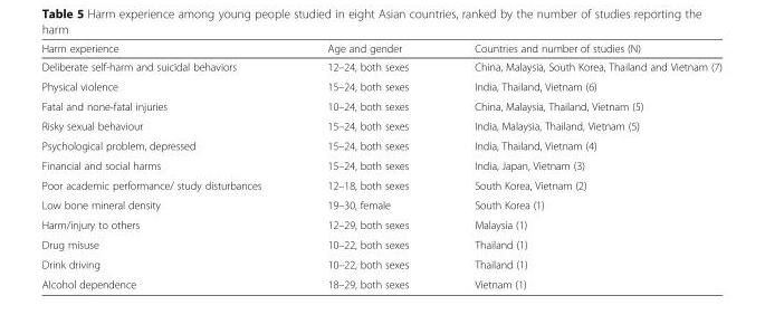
<table><thead><tr><td>Harm experience</td><td>Age and gender</td><td>Countries and number of studies (N)</td></tr></thead><tbody><tr><td>Deliberate self-harm and suicidal behaviors</td><td>12–24, both sexes</td><td>China, Malaysia, South Korea, Thailand and Vietnam (7)</td></tr><tr><td>Physical violence</td><td>15–24, both sexes</td><td>India, Thailand, Vietnam (6)</td></tr><tr><td>Fatal and none-fatal injuries</td><td>10–24, both sexes</td><td>China, Malaysia, Thailand, Vietnam (5)</td></tr><tr><td>Risky sexual behaviour</td><td>15–24, both sexes</td><td>India, Malaysia, Thailand, Vietnam (5)</td></tr><tr><td>Psychological problem, depressed</td><td>15–24, both sexes</td><td>India, Thailand, Vietnam (4)</td></tr><tr><td>Financial and social harms</td><td>15–24, both sexes</td><td>India, Japan, Vietnam (3)</td></tr><tr><td>Poor academic performance/ study disturbances</td><td>12–18, both sexes</td><td>South Korea, Vietnam (2)</td></tr><tr><td>Low bone mineral density</td><td>19–30, female</td><td>South Korea (1)</td></tr><tr><td>Harm/injury to others</td><td>12–29, both sexes</td><td>Malaysia (1)</td></tr><tr><td>Drug misuse</td><td>10–22, both sexes</td><td>Thailand (1)</td></tr><tr><td>Drink driving</td><td>10–22, both sexes</td><td>Thailand (1)</td></tr><tr><td>Alcohol dependence</td><td>18–29, both sexes</td><td>Vietnam (1)</td></tr></tbody></table>